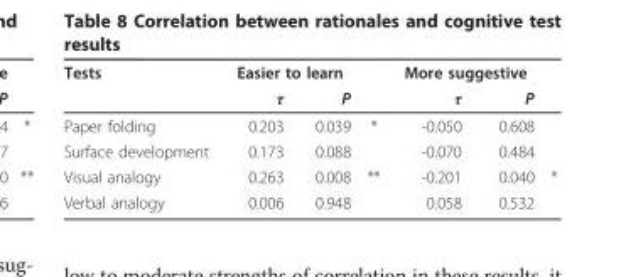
<table><thead><tr><td rowspan="2">Tests</td><td colspan="2">Easier to learn</td><td rowspan="2"></td><td colspan="2">More suggestive</td><td rowspan="2"></td></tr><tr><td>τ</td><td>P</td><td>τ</td><td>P</td></tr></thead><tbody><tr><td>Paper folding</td><td>0.203</td><td>0.039</td><td>*</td><td>-0.050</td><td>0.608</td><td></td></tr><tr><td>Surface development</td><td>0.173</td><td>0.088</td><td></td><td>-0.070</td><td>0.484</td><td></td></tr><tr><td>Visual analogy</td><td>0.263</td><td>0.008</td><td>**</td><td>-0.201</td><td>0.040</td><td>*</td></tr><tr><td>Verbal analogy</td><td>0.006</td><td>0.948</td><td></td><td>0.058</td><td>0.532</td><td></td></tr></tbody></table>